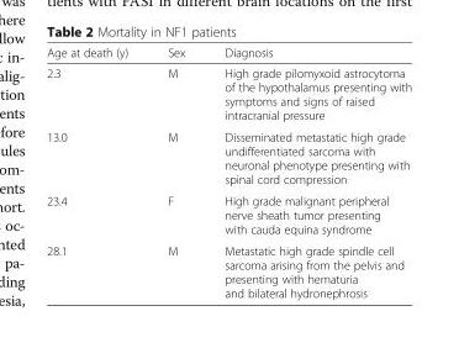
<table><thead><tr><td>Age at death (y)</td><td>Sex</td><td>Diagnosis</td></tr></thead><tbody><tr><td>2.3</td><td>M</td><td>High grade pilomyxoid astrocytoma of the hypothalamus presenting with symptoms and signs of raised intracranial pressure</td></tr><tr><td>13.0</td><td>M</td><td>Disseminated metastatic high grade undifferentiated sarcoma with neuronal phenotype presenting with spinal cord compression</td></tr><tr><td>23.4</td><td>F</td><td>High grade malignant peripheral nerve sheath tumor presenting with cauda equina syndrome</td></tr><tr><td>28.1</td><td>M</td><td>Metastatic high grade spindle cell sarcoma arising from the pelvis and presenting with hematuria and bilateral hydronephrosis</td></tr></tbody></table>